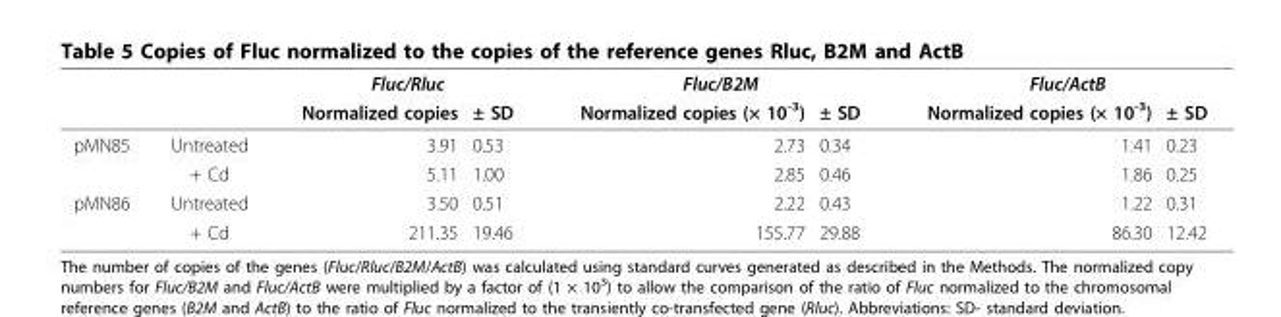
<table><thead><tr><td rowspan="2"></td><td rowspan="2"></td><td colspan="2">Fluc/Rluc</td><td colspan="2">Fluc/B2M</td><td colspan="2">Fluc/ActB</td></tr><tr><td>Normalized copies</td><td>± SD</td><td>Normalized copies (× 10<sup>-3</sup>)</td><td>± SD</td><td>Normalized copies (× 10<sup>-3</sup>)</td><td>± SD</td></tr></thead><tbody><tr><td rowspan="2">pMN85</td><td>Untreated</td><td>3.91</td><td>0.53</td><td>2.73</td><td>0.34</td><td>1.41</td><td>0.23</td></tr><tr><td>+ Cd</td><td>5.11</td><td>1.00</td><td>2.85</td><td>0.46</td><td>1.86</td><td>0.25</td></tr><tr><td rowspan="2">pMN86</td><td>Untreated</td><td>3.50</td><td>0.51</td><td>2.22</td><td>0.43</td><td>1.22</td><td>0.31</td></tr><tr><td>+ Cd</td><td>211.35</td><td>19.46</td><td>155.77</td><td>29.88</td><td>86.30</td><td>12.42</td></tr></tbody></table>